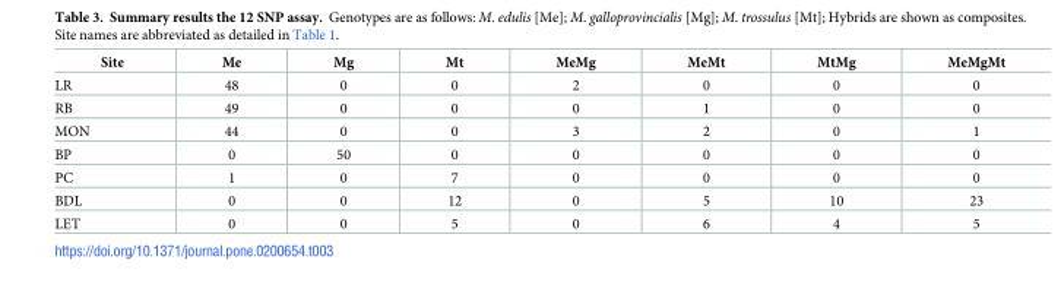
<table><thead><tr><td>Site</td><td>Me</td><td>Mg</td><td>Mt</td><td>MeMg</td><td>MeMt</td><td>MtMg</td><td>MeMgMt</td></tr></thead><tbody><tr><td>LR</td><td>48</td><td>0</td><td>0</td><td>2</td><td>0</td><td>0</td><td>0</td></tr><tr><td>RB</td><td>49</td><td>0</td><td>0</td><td>0</td><td>1</td><td>0</td><td>0</td></tr><tr><td>MON</td><td>44</td><td>0</td><td>0</td><td>3</td><td>2</td><td>0</td><td>1</td></tr><tr><td>BP</td><td>0</td><td>50</td><td>0</td><td>0</td><td>0</td><td>0</td><td>0</td></tr><tr><td>PC</td><td>1</td><td>0</td><td>7</td><td>0</td><td>0</td><td>0</td><td>0</td></tr><tr><td>BDL</td><td>0</td><td>0</td><td>12</td><td>0</td><td>5</td><td>10</td><td>23</td></tr><tr><td>LET</td><td>0</td><td>0</td><td>5</td><td>0</td><td>6</td><td>4</td><td>5</td></tr></tbody></table>